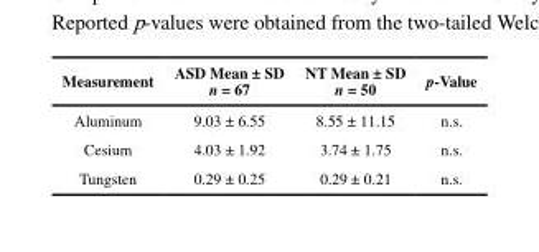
<table><thead><tr><td>Measurement</td><td>ASD Mean ± SD n = 67</td><td>NT Mean ± SD n = 50</td><td>p-Value</td></tr></thead><tbody><tr><td>Aluminum</td><td>9.03 ± 6.55</td><td>8.55 ± 11.15</td><td>n.s.</td></tr><tr><td>Cesium</td><td>4.03 ± 1.92</td><td>3.74 ± 1.75</td><td>n.s.</td></tr><tr><td>Tungsten</td><td>0.29 ± 0.25</td><td>0.29 ± 0.21</td><td>n.s.</td></tr></tbody></table>